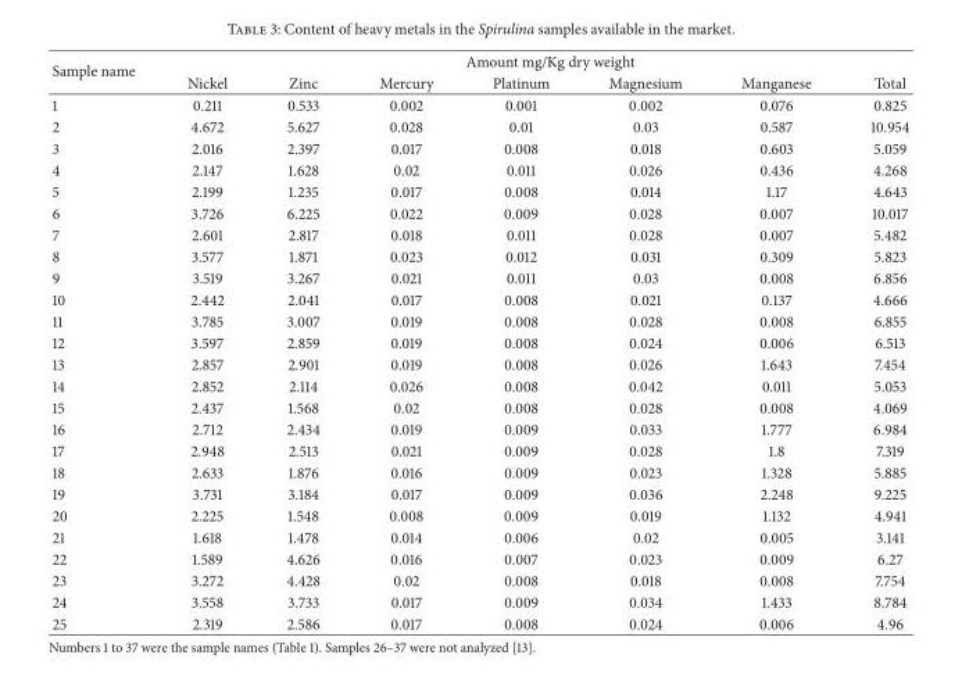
<table><thead><tr><td rowspan="2">Sample name</td><td colspan="7">Amount mg/Kg dry weight</td></tr><tr><td>Nickel</td><td>Zinc</td><td>Mercury</td><td>Platinum</td><td>Magnesium</td><td>Manganese</td><td>Total</td></tr></thead><tbody><tr><td>1</td><td>0.211</td><td>0.533</td><td>0.002</td><td>0.001</td><td>0.002</td><td>0.076</td><td>0.825</td></tr><tr><td>2</td><td>4.672</td><td>5.627</td><td>0.028</td><td>0.01</td><td>0.03</td><td>0.587</td><td>10.954</td></tr><tr><td>3</td><td>2.016</td><td>2.397</td><td>0.017</td><td>0.008</td><td>0.018</td><td>0.603</td><td>5.059</td></tr><tr><td>4</td><td>2.147</td><td>1.628</td><td>0.02</td><td>0.011</td><td>0.026</td><td>0.436</td><td>4.268</td></tr><tr><td>5</td><td>2.199</td><td>1.235</td><td>0.017</td><td>0.008</td><td>0.014</td><td>1.17</td><td>4.643</td></tr><tr><td>6</td><td>3.726</td><td>6.225</td><td>0.022</td><td>0.009</td><td>0.028</td><td>0.007</td><td>10.017</td></tr><tr><td>7</td><td>2.601</td><td>2.817</td><td>0.018</td><td>0.011</td><td>0.028</td><td>0.007</td><td>5.482</td></tr><tr><td>8</td><td>3.577</td><td>1.871</td><td>0.023</td><td>0.012</td><td>0.031</td><td>0.309</td><td>5.823</td></tr><tr><td>9</td><td>3.519</td><td>3.267</td><td>0.021</td><td>0.011</td><td>0.03</td><td>0.008</td><td>6.856</td></tr><tr><td>10</td><td>2.442</td><td>2.041</td><td>0.017</td><td>0.008</td><td>0.021</td><td>0.137</td><td>4.666</td></tr><tr><td>11</td><td>3.785</td><td>3.007</td><td>0.019</td><td>0.008</td><td>0.028</td><td>0.008</td><td>6.855</td></tr><tr><td>12</td><td>3.597</td><td>2.859</td><td>0.019</td><td>0.008</td><td>0.024</td><td>0.006</td><td>6.513</td></tr><tr><td>13</td><td>2.857</td><td>2.901</td><td>0.019</td><td>0.008</td><td>0.026</td><td>1.643</td><td>7.454</td></tr><tr><td>14</td><td>2.852</td><td>2.114</td><td>0.026</td><td>0.008</td><td>0.042</td><td>0.011</td><td>5.053</td></tr><tr><td>15</td><td>2.437</td><td>1.568</td><td>0.02</td><td>0.008</td><td>0.028</td><td>0.008</td><td>4.069</td></tr><tr><td>16</td><td>2.712</td><td>2.434</td><td>0.019</td><td>0.009</td><td>0.033</td><td>1.777</td><td>6.984</td></tr><tr><td>17</td><td>2.948</td><td>2.513</td><td>0.021</td><td>0.009</td><td>0.028</td><td>1.8</td><td>7.319</td></tr><tr><td>18</td><td>2.633</td><td>1.876</td><td>0.016</td><td>0.009</td><td>0.023</td><td>1.328</td><td>5.885</td></tr><tr><td>19</td><td>3.731</td><td>3.184</td><td>0.017</td><td>0.009</td><td>0.036</td><td>2.248</td><td>9.225</td></tr><tr><td>20</td><td>2.225</td><td>1.548</td><td>0.008</td><td>0.009</td><td>0.019</td><td>1.132</td><td>4.941</td></tr><tr><td>21</td><td>1.618</td><td>1.478</td><td>0.014</td><td>0.006</td><td>0.02</td><td>0.005</td><td>3.141</td></tr><tr><td>22</td><td>1.589</td><td>4.626</td><td>0.016</td><td>0.007</td><td>0.023</td><td>0.009</td><td>6.27</td></tr><tr><td>23</td><td>3.272</td><td>4.428</td><td>0.02</td><td>0.008</td><td>0.018</td><td>0.008</td><td>7.754</td></tr><tr><td>24</td><td>3.558</td><td>3.733</td><td>0.017</td><td>0.009</td><td>0.034</td><td>1.433</td><td>8.784</td></tr><tr><td>25</td><td>2.319</td><td>2.586</td><td>0.017</td><td>0.008</td><td>0.024</td><td>0.006</td><td>4.96</td></tr></tbody></table>